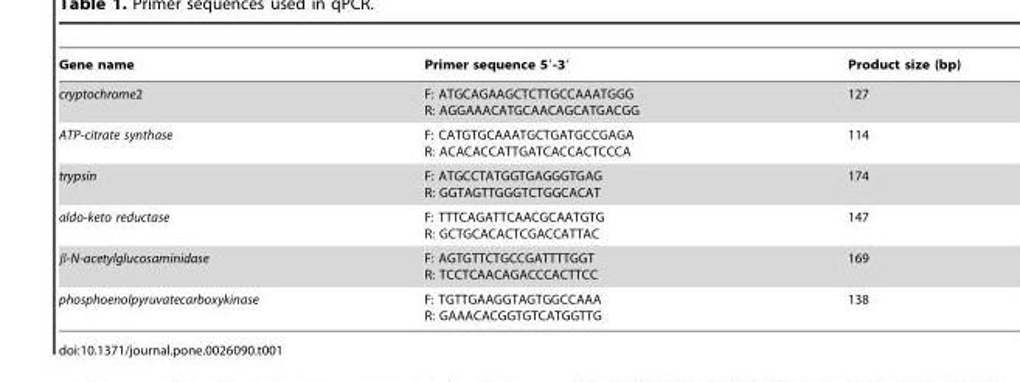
<table><thead><tr><td>Gene name</td><td>Primer sequence 5′-3′</td><td>Product size (bp)</td></tr></thead><tbody><tr><td>cryptochrome2</td><td>F: ATGCAGAAGCTCTTGCCAAATGGG R: AGGAAACATGCAACAGCATGACGG</td><td>127</td></tr><tr><td>ATP-citrate synthase</td><td>F: CATGTGCAAATGCTGATGCCGAGA R: ACACACCATTGATCACCACTCCCA</td><td>114</td></tr><tr><td>trypsin</td><td>F: ATGCCTATGGTGAGGGTGAG R: GGTAGTTGGGTCTGGCACAT</td><td>174</td></tr><tr><td>aldo-keto reductase</td><td>F: TTTCAGATTCAACGCAATGTG R: GCTGCACACTCGACCATTAC</td><td>147</td></tr><tr><td>β-N-acetylglucosaminidase</td><td>F: AGTGTTCTGCCGATTTTGGT R: TCCTCAACAGACCCACTTCC</td><td>169</td></tr><tr><td>phosphoenolpyruvatecarboxykinase</td><td>F: TGTTGAAGGTAGTGGCCAAA R: GAAACACGGTGTCATGGTTG</td><td>138</td></tr></tbody></table>